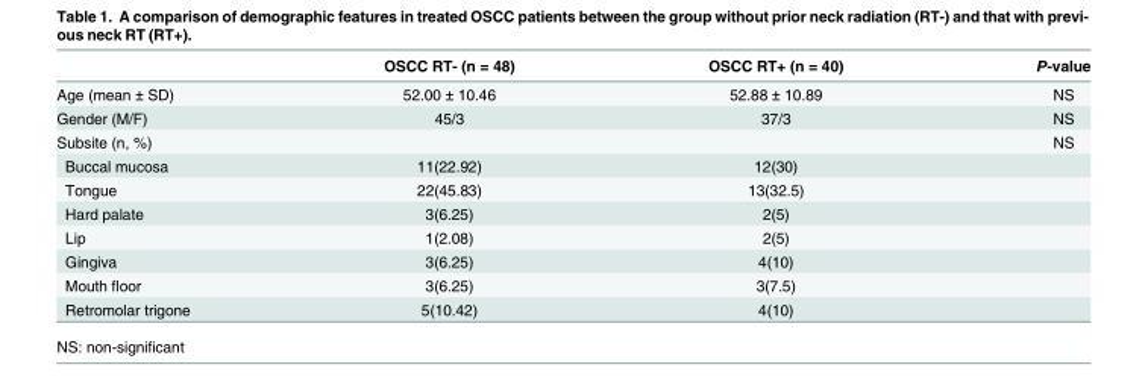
<table><thead><tr><td></td><td>OSCC RT- (n = 48)</td><td>OSCC RT+ (n = 40)</td><td>P-value</td></tr></thead><tbody><tr><td>Age (mean ± SD)</td><td>52.00 ± 10.46</td><td>52.88 ± 10.89</td><td>NS</td></tr><tr><td>Gender (M/F)</td><td>45/3</td><td>37/3</td><td>NS</td></tr><tr><td>Subsite (n, %)</td><td></td><td></td><td>NS</td></tr><tr><td>Buccal mucosa</td><td>11(22.92)</td><td>12(30)</td><td></td></tr><tr><td>Tongue</td><td>22(45.83)</td><td>13(32.5)</td><td></td></tr><tr><td>Hard palate</td><td>3(6.25)</td><td>2(5)</td><td></td></tr><tr><td>Lip</td><td>1(2.08)</td><td>2(5)</td><td></td></tr><tr><td>Gingiva</td><td>3(6.25)</td><td>4(10)</td><td></td></tr><tr><td>Mouth floor</td><td>3(6.25)</td><td>3(7.5)</td><td></td></tr><tr><td>Retromolar trigone</td><td>5(10.42)</td><td>4(10)</td><td></td></tr></tbody></table>